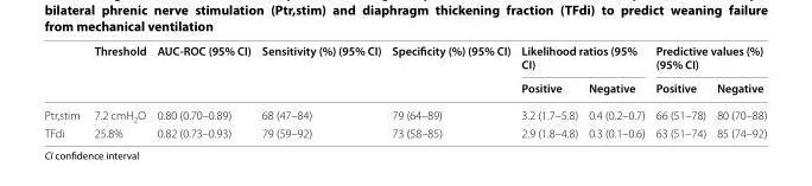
<table><thead><tr><td rowspan="2"></td><td rowspan="2">Threshold</td><td rowspan="2">AUC-ROC (95% CI)</td><td rowspan="2">Sensitivity (%) (95% CI)</td><td rowspan="2">Specificity (%) (95% CI)</td><td colspan="2">Likelihood ratios (95% CI)</td><td colspan="2">Predictive values (%) (95% CI)</td></tr><tr><td>Positive</td><td>Negative</td><td>Positive</td><td>Negative</td></tr></thead><tbody><tr><td>Ptr,stim</td><td>7.2 cmH<sub>2</sub>O</td><td>0.80 (0.70–0.89)</td><td>68 (47–84)</td><td>79 (64–89)</td><td>3.2 (1.7–5.8)</td><td>0.4 (0.2–0.7)</td><td>66 (51–78)</td><td>80 (70–88)</td></tr><tr><td>TFdi</td><td>25.8%</td><td>0.82 (0.73–0.93)</td><td>79 (59–92)</td><td>73 (58–85)</td><td>2.9 (1.8–4.8)</td><td>0.3 (0.1–0.6)</td><td>63 (51–74)</td><td>85 (74–92)</td></tr></tbody></table>